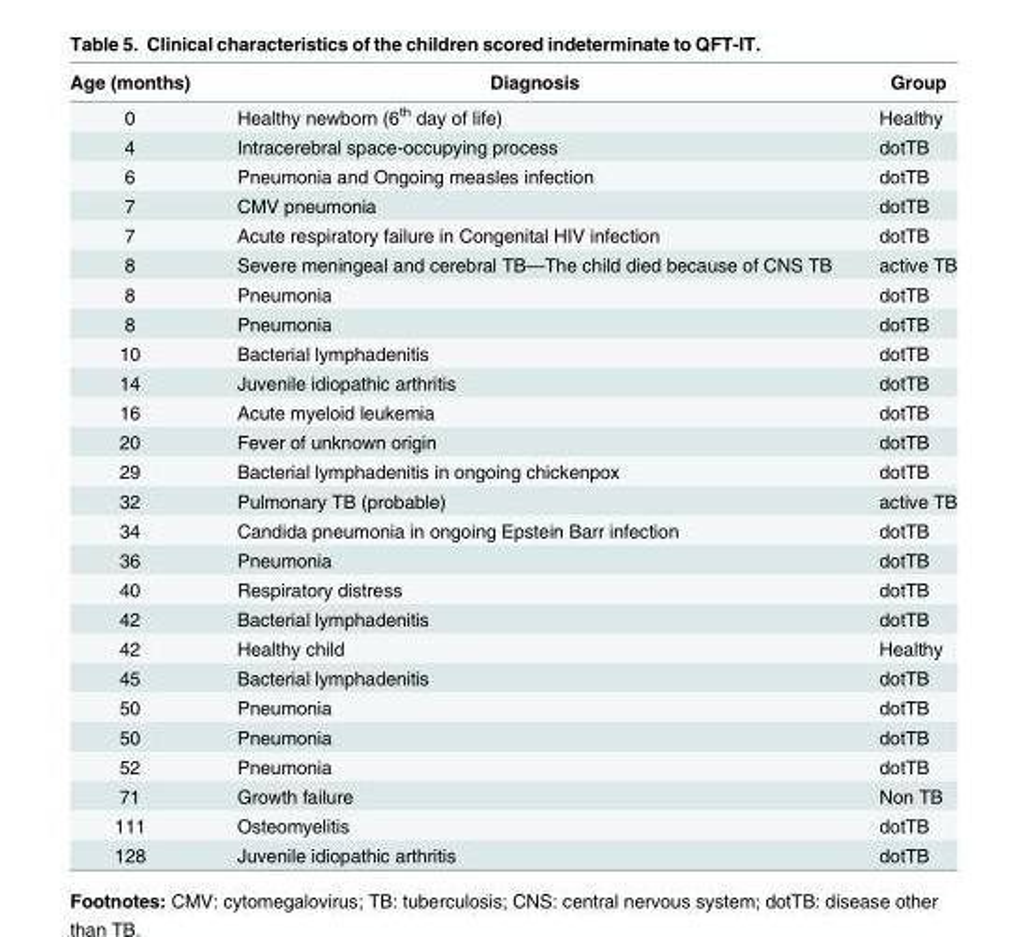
<table><thead><tr><td>Age (months)</td><td>Diagnosis</td><td>Group</td></tr></thead><tbody><tr><td>0</td><td>Healthy newborn (6<sup>th</sup> day of life)</td><td>Healthy</td></tr><tr><td>4</td><td>Intracerebral space-occupying process</td><td>dotTB</td></tr><tr><td>6</td><td>Pneumonia and Ongoing measles infection</td><td>dotTB</td></tr><tr><td>7</td><td>CMV pneumonia</td><td>dotTB</td></tr><tr><td>7</td><td>Acute respiratory failure in Congenital HIV infection</td><td>dotTB</td></tr><tr><td>8</td><td>Severe meningeal and cerebral TB—The child died because of CNS TB</td><td>active TB</td></tr><tr><td>8</td><td>Pneumonia</td><td>dotTB</td></tr><tr><td>8</td><td>Pneumonia</td><td>dotTB</td></tr><tr><td>10</td><td>Bacterial lymphadenitis</td><td>dotTB</td></tr><tr><td>14</td><td>Juvenile idiopathic arthritis</td><td>dotTB</td></tr><tr><td>16</td><td>Acute myeloid leukemia</td><td>dotTB</td></tr><tr><td>20</td><td>Fever of unknown origin</td><td>dotTB</td></tr><tr><td>29</td><td>Bacterial lymphadenitis in ongoing chickenpox</td><td>dotTB</td></tr><tr><td>32</td><td>Pulmonary TB (probable)</td><td>active TB</td></tr><tr><td>34</td><td>Candida pneumonia in ongoing Epstein Barr infection</td><td>dotTB</td></tr><tr><td>36</td><td>Pneumonia</td><td>dotTB</td></tr><tr><td>40</td><td>Respiratory distress</td><td>dotTB</td></tr><tr><td>42</td><td>Bacterial lymphadenitis</td><td>dotTB</td></tr><tr><td>42</td><td>Healthy child</td><td>Healthy</td></tr><tr><td>45</td><td>Bacterial lymphadenitis</td><td>dotTB</td></tr><tr><td>50</td><td>Pneumonia</td><td>dotTB</td></tr><tr><td>50</td><td>Pneumonia</td><td>dotTB</td></tr><tr><td>52</td><td>Pneumonia</td><td>dotTB</td></tr><tr><td>71</td><td>Growth failure</td><td>Non TB</td></tr><tr><td>111</td><td>Osteomyelitis</td><td>dotTB</td></tr><tr><td>128</td><td>Juvenile idiopathic arthritis</td><td>dotTB</td></tr></tbody></table>